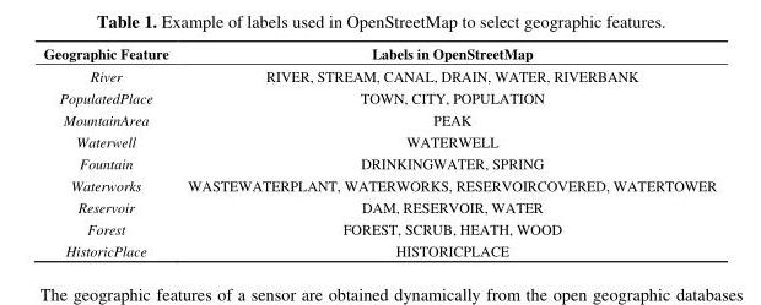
<table><thead><tr><td>Geographic Feature</td><td>Labels in OpenStreetMap</td></tr></thead><tbody><tr><td>River</td><td>RIVER, STREAM, CANAL, DRAIN, WATER, RIVERBANK</td></tr><tr><td>PopulatedPlace</td><td>TOWN, CITY, POPULATION</td></tr><tr><td>MountainArea</td><td>PEAK</td></tr><tr><td>Waterwell</td><td>WATERWELL</td></tr><tr><td>Fountain</td><td>DRINKINGWATER, SPRING</td></tr><tr><td>Waterworks</td><td>WASTEWATERPLANT, WATERWORKS, RESERVOIRCOVERED, WATERTOWER</td></tr><tr><td>Reservoir</td><td>DAM, RESERVOIR, WATER</td></tr><tr><td>Forest</td><td>FOREST, SCRUB, HEATH, WOOD</td></tr><tr><td>HistoricPlace</td><td>HISTORICPLACE</td></tr></tbody></table>